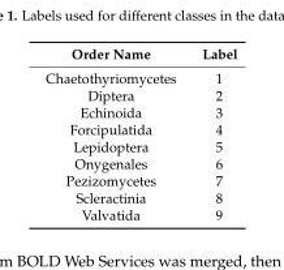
<table><thead><tr><td>Order Name</td><td>Label</td></tr></thead><tbody><tr><td>Chaetothyriomycetes</td><td>1</td></tr><tr><td>Diptera</td><td>2</td></tr><tr><td>Echinoida</td><td>3</td></tr><tr><td>Forcipulatida</td><td>4</td></tr><tr><td>Lepidoptera</td><td>5</td></tr><tr><td>Onygenales</td><td>6</td></tr><tr><td>Pezizomycetes</td><td>7</td></tr><tr><td>Scleractinia</td><td>8</td></tr><tr><td>Valvatida</td><td>9</td></tr></tbody></table>